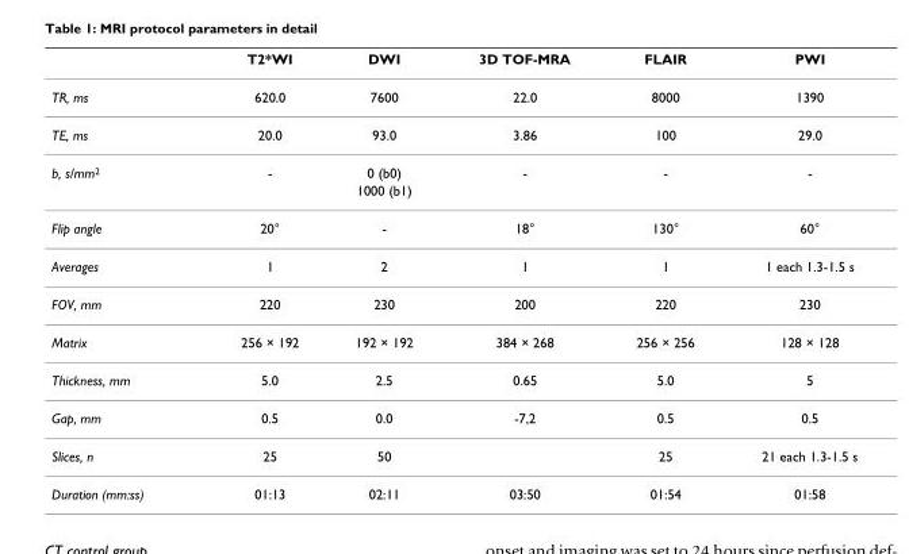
<table><thead><tr><td></td><td>T2*WI</td><td>DWI</td><td>3D TOF-MRA</td><td>FLAIR</td><td>PWI</td></tr></thead><tbody><tr><td>TR, ms</td><td>620.0</td><td>7600</td><td>22.0</td><td>8000</td><td>1390</td></tr><tr><td>TE, ms</td><td>20.0</td><td>93.0</td><td>3.86</td><td>100</td><td>29.0</td></tr><tr><td rowspan="2">b, s/mm<sup>2</sup></td><td>-</td><td>0 (b0)</td><td>-</td><td>-</td><td>-</td></tr><tr><td></td><td>1000 (b1)</td><td></td><td></td><td></td></tr><tr><td>Flip angle</td><td>20°</td><td>-</td><td>18°</td><td>130°</td><td>60°</td></tr><tr><td>Averages</td><td>1</td><td>2</td><td>1</td><td>1</td><td>1 each 1.3-1.5 s</td></tr><tr><td>FOV, mm</td><td>220</td><td>230</td><td>200</td><td>220</td><td>230</td></tr><tr><td>Matrix</td><td>256 × 192</td><td>192 × 192</td><td>384 × 268</td><td>256 × 256</td><td>128 × 128</td></tr><tr><td>Thickness, mm</td><td>5.0</td><td>2.5</td><td>0.65</td><td>5.0</td><td>5</td></tr><tr><td>Gap, mm</td><td>0.5</td><td>0.0</td><td>-7,2</td><td>0.5</td><td>0.5</td></tr><tr><td>Slices, n</td><td>25</td><td>50</td><td></td><td>25</td><td>21 each 1.3-1.5 s</td></tr><tr><td>Duration (mm:ss)</td><td>01:13</td><td>02:11</td><td>03:50</td><td>01:54</td><td>01:58</td></tr></tbody></table>